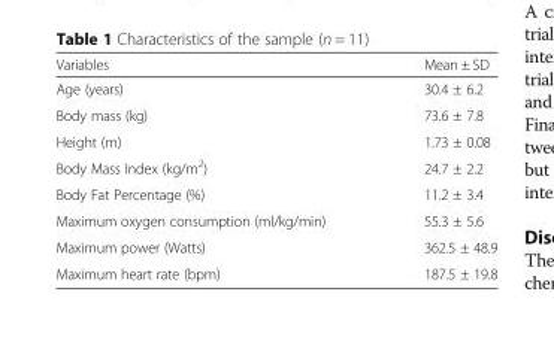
<table><thead><tr><td>Variables</td><td>Mean ± SD</td></tr></thead><tbody><tr><td>Age (years)</td><td>30.4 ± 6.2</td></tr><tr><td>Body mass (kg)</td><td>73.6 ± 7.8</td></tr><tr><td>Height (m)</td><td>1.73 ± 0.08</td></tr><tr><td>Body Mass Index (kg/m<sup>2</sup>)</td><td>24.7 ± 2.2</td></tr><tr><td>Body Fat Percentage (%)</td><td>11.2 ± 3.4</td></tr><tr><td>Maximum oxygen consumption (ml/kg/min)</td><td>55.3 ± 5.6</td></tr><tr><td>Maximum power (Watts)</td><td>362.5 ± 48.9</td></tr><tr><td>Maximum heart rate (bpm)</td><td>187.5 ± 19.8</td></tr></tbody></table>